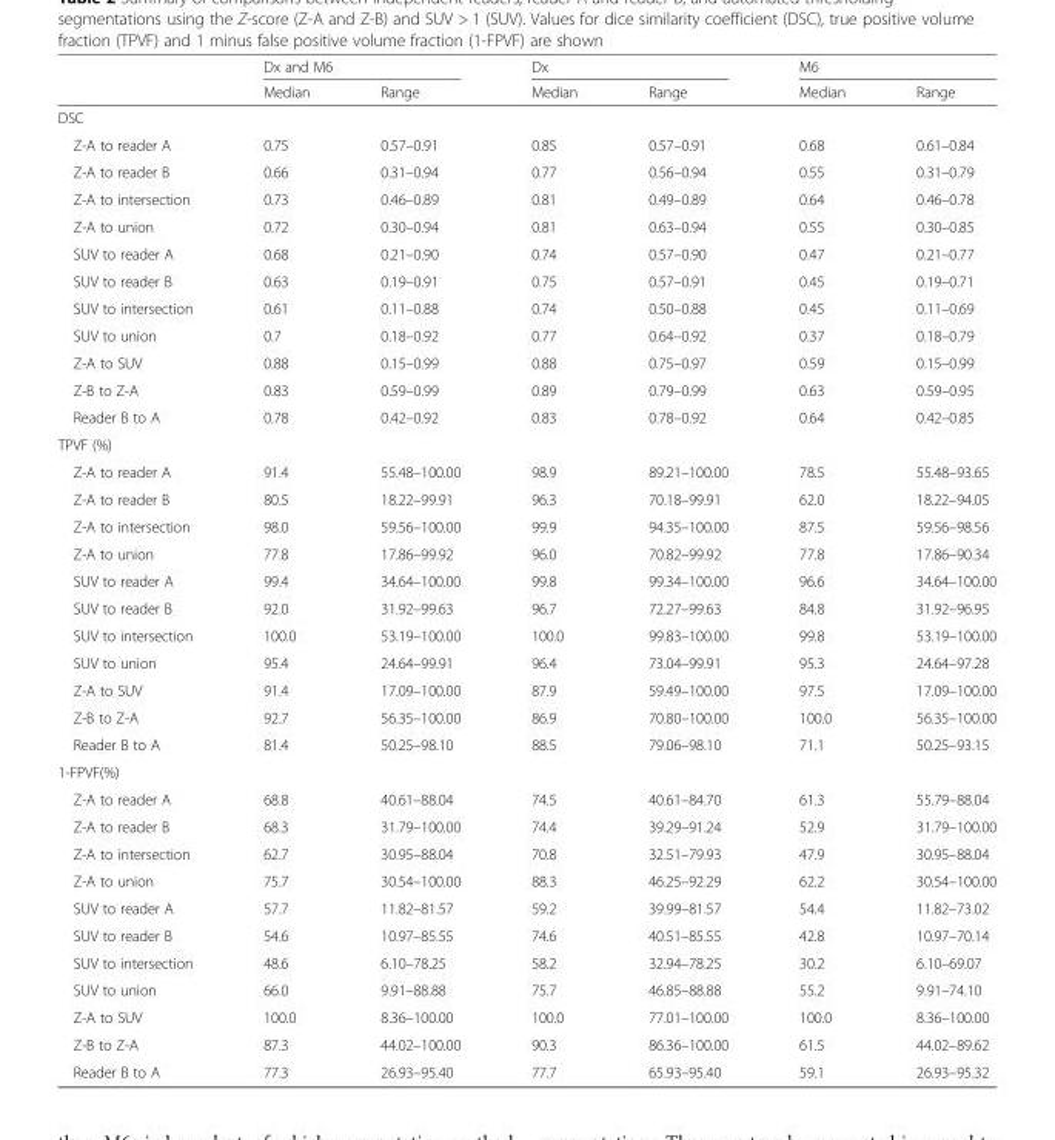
<table><thead><tr><td rowspan="2"></td><td colspan="2">Dx and M6</td><td colspan="2">Dx</td><td colspan="2">M6</td></tr><tr><td>Median</td><td>Range</td><td>Median</td><td>Range</td><td>Median</td><td>Range</td></tr></thead><tbody><tr><td colspan="7">DSC</td></tr><tr><td>Z-A to reader A</td><td>0.75</td><td>0.57–0.91</td><td>0.85</td><td>0.57–0.91</td><td>0.68</td><td>0.61–0.84</td></tr><tr><td>Z-A to reader B</td><td>0.66</td><td>0.31–0.94</td><td>0.77</td><td>0.56–0.94</td><td>0.55</td><td>0.31–0.79</td></tr><tr><td>Z-A to intersection</td><td>0.73</td><td>0.46–0.89</td><td>0.81</td><td>0.49–0.89</td><td>0.64</td><td>0.46–0.78</td></tr><tr><td>Z-A to union</td><td>0.72</td><td>0.30–0.94</td><td>0.81</td><td>0.63–0.94</td><td>0.55</td><td>0.30–0.85</td></tr><tr><td>SUV to reader A</td><td>0.68</td><td>0.21–0.90</td><td>0.74</td><td>0.57–0.90</td><td>0.47</td><td>0.21–0.77</td></tr><tr><td>SUV to reader B</td><td>0.63</td><td>0.19–0.91</td><td>0.75</td><td>0.57–0.91</td><td>0.45</td><td>0.19–0.71</td></tr><tr><td>SUV to intersection</td><td>0.61</td><td>0.11–0.88</td><td>0.74</td><td>0.50–0.88</td><td>0.45</td><td>0.11–0.69</td></tr><tr><td>SUV to union</td><td>0.7</td><td>0.18–0.92</td><td>0.77</td><td>0.64–0.92</td><td>0.37</td><td>0.18–0.79</td></tr><tr><td>Z-A to SUV</td><td>0.88</td><td>0.15–0.99</td><td>0.88</td><td>0.75–0.97</td><td>0.59</td><td>0.15–0.99</td></tr><tr><td>Z-B to Z-A</td><td>0.83</td><td>0.59–0.99</td><td>0.89</td><td>0.79–0.99</td><td>0.63</td><td>0.59–0.95</td></tr><tr><td>Reader B to A</td><td>0.78</td><td>0.42–0.92</td><td>0.83</td><td>0.78–0.92</td><td>0.64</td><td>0.42–0.85</td></tr><tr><td colspan="7">TPVF (%)</td></tr><tr><td>Z-A to reader A</td><td>91.4</td><td>55.48–100.00</td><td>98.9</td><td>89.21–100.00</td><td>78.5</td><td>55.48–93.65</td></tr><tr><td>Z-A to reader B</td><td>80.5</td><td>18.22–99.91</td><td>96.3</td><td>70.18–99.91</td><td>62.0</td><td>18.22–94.05</td></tr><tr><td>Z-A to intersection</td><td>98.0</td><td>59.56–100.00</td><td>99.9</td><td>94.35–100.00</td><td>87.5</td><td>59.56–98.56</td></tr><tr><td>Z-A to union</td><td>77.8</td><td>17.86–99.92</td><td>96.0</td><td>70.82–99.92</td><td>77.8</td><td>17.86–90.34</td></tr><tr><td>SUV to reader A</td><td>99.4</td><td>34.64–100.00</td><td>99.8</td><td>99.34–100.00</td><td>96.6</td><td>34.64–100.00</td></tr><tr><td>SUV to reader B</td><td>92.0</td><td>31.92–99.63</td><td>96.7</td><td>72.27–99.63</td><td>84.8</td><td>31.92–96.95</td></tr><tr><td>SUV to intersection</td><td>100.0</td><td>53.19–100.00</td><td>100.0</td><td>99.83–100.00</td><td>99.8</td><td>53.19–100.00</td></tr><tr><td>SUV to union</td><td>95.4</td><td>24.64–99.91</td><td>96.4</td><td>73.04–99.91</td><td>95.3</td><td>24.64–97.28</td></tr><tr><td>Z-A to SUV</td><td>91.4</td><td>17.09–100.00</td><td>87.9</td><td>59.49–100.00</td><td>97.5</td><td>17.09–100.00</td></tr><tr><td>Z-B to Z-A</td><td>92.7</td><td>56.35–100.00</td><td>86.9</td><td>70.80–100.00</td><td>100.0</td><td>56.35–100.00</td></tr><tr><td>Reader B to A</td><td>81.4</td><td>50.25–98.10</td><td>88.5</td><td>79.06–98.10</td><td>71.1</td><td>50.25–93.15</td></tr><tr><td colspan="7">1-FPVF(%)</td></tr><tr><td>Z-A to reader A</td><td>68.8</td><td>40.61–88.04</td><td>74.5</td><td>40.61–84.70</td><td>61.3</td><td>55.79–88.04</td></tr><tr><td>Z-A to reader B</td><td>68.3</td><td>31.79–100.00</td><td>74.4</td><td>39.29–91.24</td><td>52.9</td><td>31.79–100.00</td></tr><tr><td>Z-A to intersection</td><td>62.7</td><td>30.95–88.04</td><td>70.8</td><td>32.51–79.93</td><td>47.9</td><td>30.95–88.04</td></tr><tr><td>Z-A to union</td><td>75.7</td><td>30.54–100.00</td><td>88.3</td><td>46.25–92.29</td><td>62.2</td><td>30.54–100.00</td></tr><tr><td>SUV to reader A</td><td>57.7</td><td>11.82–81.57</td><td>59.2</td><td>39.99–81.57</td><td>54.4</td><td>11.82–73.02</td></tr><tr><td>SUV to reader B</td><td>54.6</td><td>10.97–85.55</td><td>74.6</td><td>40.51–85.55</td><td>42.8</td><td>10.97–70.14</td></tr><tr><td>SUV to intersection</td><td>48.6</td><td>6.10–78.25</td><td>58.2</td><td>32.94–78.25</td><td>30.2</td><td>6.10–69.07</td></tr><tr><td>SUV to union</td><td>66.0</td><td>9.91–88.88</td><td>75.7</td><td>46.85–88.88</td><td>55.2</td><td>9.91–74.10</td></tr><tr><td>Z-A to SUV</td><td>100.0</td><td>8.36–100.00</td><td>100.0</td><td>77.01–100.00</td><td>100.0</td><td>8.36–100.00</td></tr><tr><td>Z-B to Z-A</td><td>87.3</td><td>44.02–100.00</td><td>90.3</td><td>86.36–100.00</td><td>61.5</td><td>44.02–89.62</td></tr><tr><td>Reader B to A</td><td>77.3</td><td>26.93–95.40</td><td>77.7</td><td>65.93–95.40</td><td>59.1</td><td>26.93–95.32</td></tr></tbody></table>